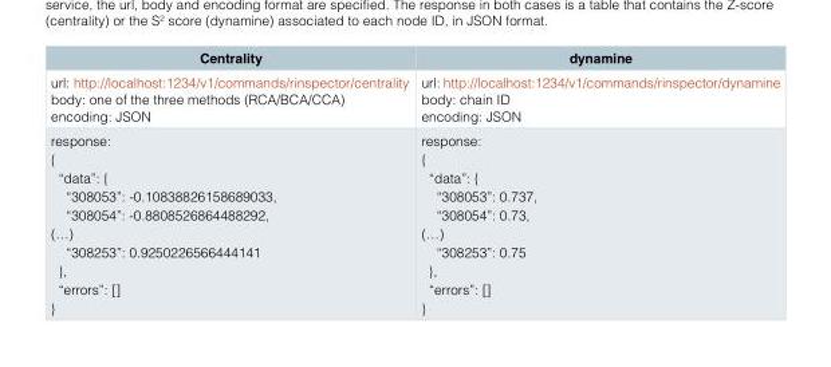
<table><thead><tr><td>Centrality</td><td>dynamine</td></tr></thead><tbody><tr><td>url: http://localhost:1234/v1/commands/rinspector/centrality body: one of the three methods (RCA/BCA/CCA) encoding: JSON</td><td>url: http://localhost:1234/v1/commands/rinspector/dynamine body: chain ID encoding: JSON</td></tr><tr><td>response: { “data”: { “308053”: -0.10838826158689033, “308054”: -0.8808526864488292, (…) “308253”: 0.9250226566444141 }, “errors”: [] }</td><td>response: { “data”: { “308053”: 0.737, “308054”: 0.73, (…) “308253”: 0.75 }, “errors”: [] }</td></tr></tbody></table>